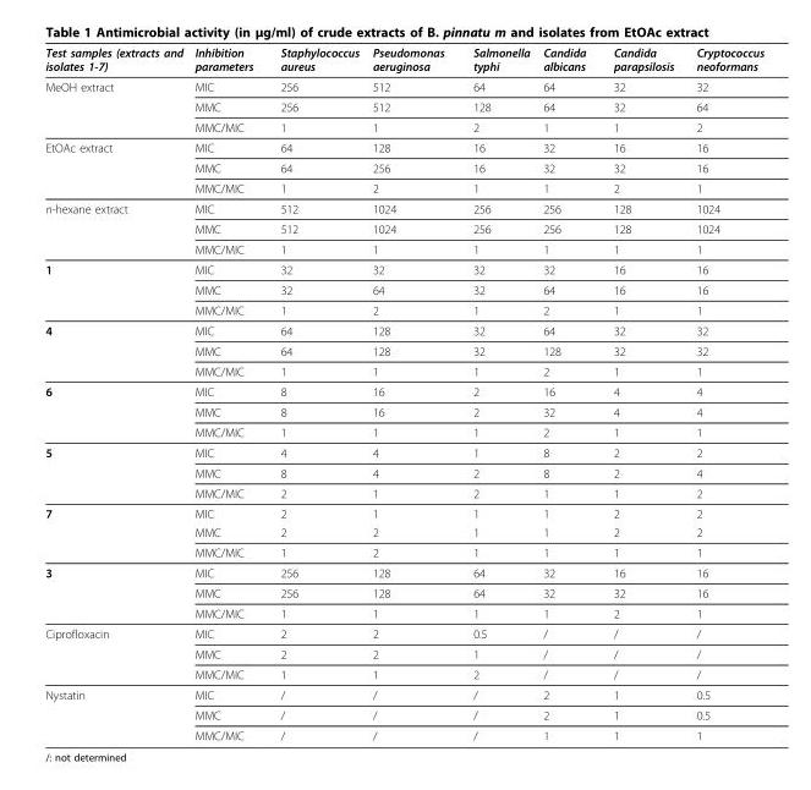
<table><thead><tr><td>Test samples (extracts and isolates 1-7)</td><td>Inhibition parameters</td><td>Staphylococcus aureus</td><td>Pseudomonas aeruginosa</td><td>Salmonella typhi</td><td>Candida albicans</td><td>Candida parapsilosis</td><td>Cryptococcus neoformans</td></tr></thead><tbody><tr><td rowspan="3">MeOH extract</td><td>MIC</td><td>256</td><td>512</td><td>64</td><td>64</td><td>32</td><td>32</td></tr><tr><td>MMC</td><td>256</td><td>512</td><td>128</td><td>64</td><td>32</td><td>64</td></tr><tr><td>MMC/MIC</td><td>1</td><td>1</td><td>2</td><td>1</td><td>1</td><td>2</td></tr><tr><td rowspan="3">EtOAc extract</td><td>MIC</td><td>64</td><td>128</td><td>16</td><td>32</td><td>16</td><td>16</td></tr><tr><td>MMC</td><td>64</td><td>256</td><td>16</td><td>32</td><td>32</td><td>16</td></tr><tr><td>MMC/MIC</td><td>1</td><td>2</td><td>1</td><td>1</td><td>2</td><td>1</td></tr><tr><td rowspan="3">n-hexane extract</td><td>MIC</td><td>512</td><td>1024</td><td>256</td><td>256</td><td>128</td><td>1024</td></tr><tr><td>MMC</td><td>512</td><td>1024</td><td>256</td><td>256</td><td>128</td><td>1024</td></tr><tr><td>MMC/MIC</td><td>1</td><td>1</td><td>1</td><td>1</td><td>1</td><td>1</td></tr><tr><td rowspan="3">1</td><td>MIC</td><td>32</td><td>32</td><td>32</td><td>32</td><td>16</td><td>16</td></tr><tr><td>MMC</td><td>32</td><td>64</td><td>32</td><td>64</td><td>16</td><td>16</td></tr><tr><td>MMC/MIC</td><td>1</td><td>2</td><td>1</td><td>2</td><td>1</td><td>1</td></tr><tr><td rowspan="3">4</td><td>MIC</td><td>64</td><td>128</td><td>32</td><td>64</td><td>32</td><td>32</td></tr><tr><td>MMC</td><td>64</td><td>128</td><td>32</td><td>128</td><td>32</td><td>32</td></tr><tr><td>MMC/MIC</td><td>1</td><td>1</td><td>1</td><td>2</td><td>1</td><td>1</td></tr><tr><td rowspan="3">6</td><td>MIC</td><td>8</td><td>16</td><td>2</td><td>16</td><td>4</td><td>4</td></tr><tr><td>MMC</td><td>8</td><td>16</td><td>2</td><td>32</td><td>4</td><td>4</td></tr><tr><td>MMC/MIC</td><td>1</td><td>1</td><td>1</td><td>2</td><td>1</td><td>1</td></tr><tr><td rowspan="3">5</td><td>MIC</td><td>4</td><td>4</td><td>1</td><td>8</td><td>2</td><td>2</td></tr><tr><td>MMC</td><td>8</td><td>4</td><td>2</td><td>8</td><td>2</td><td>4</td></tr><tr><td>MMC/MIC</td><td>2</td><td>1</td><td>2</td><td>1</td><td>1</td><td>2</td></tr><tr><td rowspan="3">7</td><td>MIC</td><td>2</td><td>1</td><td>1</td><td>1</td><td>2</td><td>2</td></tr><tr><td>MMC</td><td>2</td><td>2</td><td>1</td><td>1</td><td>2</td><td>2</td></tr><tr><td>MMC/MIC</td><td>1</td><td>2</td><td>1</td><td>1</td><td>1</td><td>1</td></tr><tr><td rowspan="3">3</td><td>MIC</td><td>256</td><td>128</td><td>64</td><td>32</td><td>16</td><td>16</td></tr><tr><td>MMC</td><td>256</td><td>128</td><td>64</td><td>32</td><td>32</td><td>16</td></tr><tr><td>MMC/MIC</td><td>1</td><td>1</td><td>1</td><td>1</td><td>2</td><td>1</td></tr><tr><td rowspan="3">Ciprofloxacin</td><td>MIC</td><td>2</td><td>2</td><td>0.5</td><td>/</td><td>/</td><td>/</td></tr><tr><td>MMC</td><td>2</td><td>2</td><td>1</td><td>/</td><td>/</td><td>/</td></tr><tr><td>MMC/MIC</td><td>1</td><td>1</td><td>2</td><td>/</td><td>/</td><td>/</td></tr><tr><td rowspan="3">Nystatin</td><td>MIC</td><td>/</td><td>/</td><td>/</td><td>2</td><td>1</td><td>0.5</td></tr><tr><td>MMC</td><td>/</td><td>/</td><td>/</td><td>2</td><td>1</td><td>0.5</td></tr><tr><td>MMC/MIC</td><td>/</td><td>/</td><td>/</td><td>1</td><td>1</td><td>1</td></tr></tbody></table>